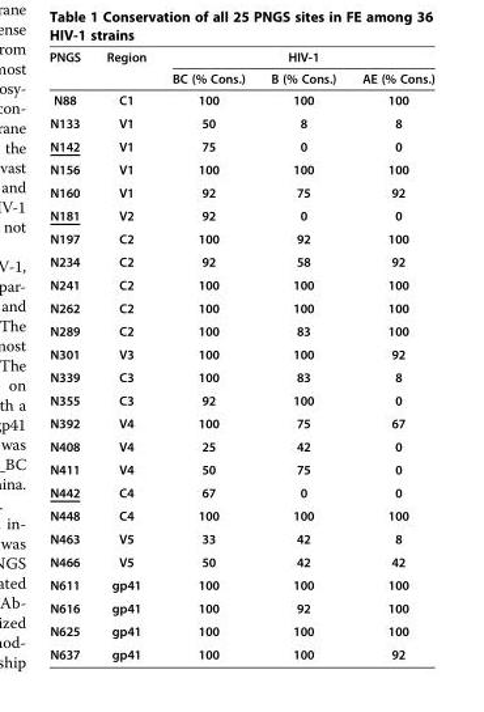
<table><thead><tr><td rowspan="2">PNGS</td><td rowspan="2">Region</td><td colspan="3">HIV-1</td></tr><tr><td>BC (% Cons.)</td><td>B (% Cons.)</td><td>AE (% Cons.)</td></tr></thead><tbody><tr><td>N88</td><td>C1</td><td>100</td><td>100</td><td>100</td></tr><tr><td>N133</td><td>V1</td><td>50</td><td>8</td><td>8</td></tr><tr><td>N142</td><td>V1</td><td>75</td><td>0</td><td>0</td></tr><tr><td>N156</td><td>V1</td><td>100</td><td>100</td><td>100</td></tr><tr><td>N160</td><td>V1</td><td>92</td><td>75</td><td>92</td></tr><tr><td>N181</td><td>V2</td><td>92</td><td>0</td><td>0</td></tr><tr><td>N197</td><td>C2</td><td>100</td><td>92</td><td>100</td></tr><tr><td>N234</td><td>C2</td><td>92</td><td>58</td><td>92</td></tr><tr><td>N241</td><td>C2</td><td>100</td><td>100</td><td>100</td></tr><tr><td>N262</td><td>C2</td><td>100</td><td>100</td><td>100</td></tr><tr><td>N289</td><td>C2</td><td>100</td><td>83</td><td>100</td></tr><tr><td>N301</td><td>V3</td><td>100</td><td>100</td><td>92</td></tr><tr><td>N339</td><td>C3</td><td>100</td><td>83</td><td>8</td></tr><tr><td>N355</td><td>C3</td><td>92</td><td>100</td><td>0</td></tr><tr><td>N392</td><td>V4</td><td>100</td><td>75</td><td>67</td></tr><tr><td>N408</td><td>V4</td><td>25</td><td>42</td><td>0</td></tr><tr><td>N411</td><td>V4</td><td>50</td><td>75</td><td>0</td></tr><tr><td>N442</td><td>C4</td><td>67</td><td>0</td><td>0</td></tr><tr><td>N448</td><td>C4</td><td>100</td><td>100</td><td>100</td></tr><tr><td>N463</td><td>V5</td><td>33</td><td>42</td><td>8</td></tr><tr><td>N466</td><td>V5</td><td>50</td><td>42</td><td>42</td></tr><tr><td>N611</td><td>gp41</td><td>100</td><td>100</td><td>100</td></tr><tr><td>N616</td><td>gp41</td><td>100</td><td>92</td><td>100</td></tr><tr><td>N625</td><td>gp41</td><td>100</td><td>100</td><td>100</td></tr><tr><td>N637</td><td>gp41</td><td>100</td><td>100</td><td>92</td></tr></tbody></table>